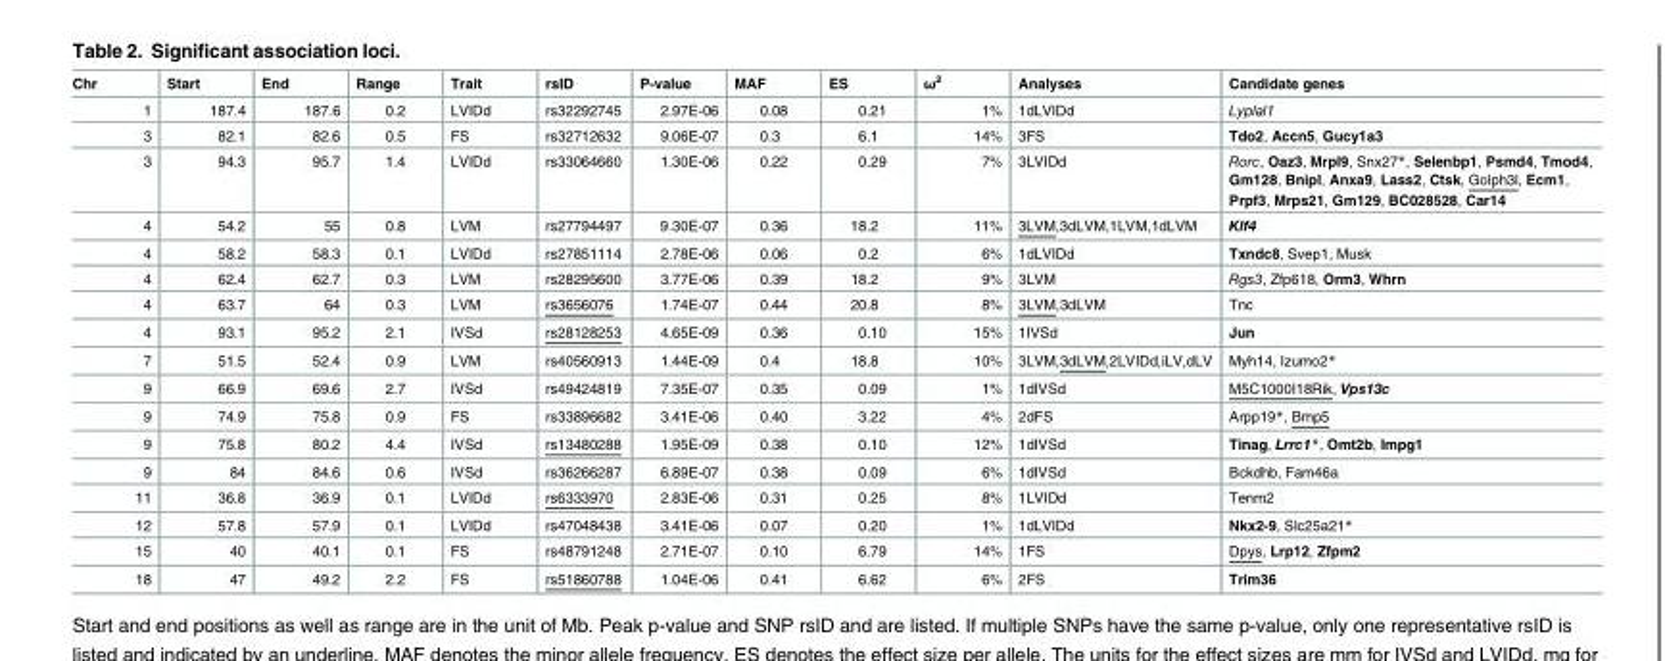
<table><thead><tr><td>Chr</td><td>Start</td><td>End</td><td>Range</td><td>Trait</td><td>rsID</td><td>P-value</td><td>MAF</td><td>ES</td><td>ω<sup>2</sup></td><td>Analyses</td><td>Candidate genes</td></tr></thead><tbody><tr><td>1</td><td>187.4</td><td>187.6</td><td>0.2</td><td>LVIDd</td><td>rs32292745</td><td>2.97E-06</td><td>0.08</td><td>0.21</td><td>1%</td><td>1dLVIDd</td><td>Lyplal1</td></tr><tr><td>3</td><td>82.1</td><td>82.6</td><td>0.5</td><td>FS</td><td>rs32712632</td><td>9.06E-07</td><td>0.3</td><td>6.1</td><td>14%</td><td>3FS</td><td>Tdo2, Accn5, Gucy1a3</td></tr><tr><td>3</td><td>94.3</td><td>95.7</td><td>1.4</td><td>LVIDd</td><td>rs33064660</td><td>1.30E-06</td><td>0.22</td><td>0.29</td><td>7%</td><td>3LVIDd</td><td>Rorc, Oaz3, Mrpl9, Snx27*, Selenbp1, Psmd4, Tmod4, Gm128, Bnipl, Anxa9, Lass2, Ctsk, Golph3l, Ecm1, Prpf3, Mrps21, Gm129, BC028528, Car14</td></tr><tr><td>4</td><td>54.2</td><td>55</td><td>0.8</td><td>LVM</td><td>rs27794497</td><td>9.30E-07</td><td>0.36</td><td>18.2</td><td>11%</td><td>3LVM,3dLVM,1LVM,1dLVM</td><td>Klf4</td></tr><tr><td>4</td><td>58.2</td><td>58.3</td><td>0.1</td><td>LVIDd</td><td>rs27851114</td><td>2.78E-06</td><td>0.06</td><td>0.2</td><td>6%</td><td>1dLVIDd</td><td>Txndc8, Svep1, Musk</td></tr><tr><td>4</td><td>62.4</td><td>62.7</td><td>0.3</td><td>LVM</td><td>rs28295600</td><td>3.77E-06</td><td>0.39</td><td>18.2</td><td>9%</td><td>3LVM</td><td>Rgs3, Zfp618, Orm3, Whrn</td></tr><tr><td>4</td><td>63.7</td><td>64</td><td>0.3</td><td>LVM</td><td>rs3656076</td><td>1.74E-07</td><td>0.44</td><td>20.8</td><td>8%</td><td>3LVM,3dLVM</td><td>Tnc</td></tr><tr><td>4</td><td>93.1</td><td>95.2</td><td>2.1</td><td>IVSd</td><td>rs28128253</td><td>4.65E-09</td><td>0.36</td><td>0.10</td><td>15%</td><td>1IVSd</td><td>Jun</td></tr><tr><td>7</td><td>51.5</td><td>52.4</td><td>0.9</td><td>LVM</td><td>rs40560913</td><td>1.44E-09</td><td>0.4</td><td>18.8</td><td>10%</td><td>3LVM,3dLVM,2LVIDd,iLV,dLV</td><td>Myh14, Izumo2*</td></tr><tr><td>9</td><td>66.9</td><td>69.6</td><td>2.7</td><td>IVSd</td><td>rs49424819</td><td>7.35E-07</td><td>0.35</td><td>0.09</td><td>1%</td><td>1dIVSd</td><td>M5C1000I18Rik, Vps13c</td></tr><tr><td>9</td><td>74.9</td><td>75.8</td><td>0.9</td><td>FS</td><td>rs33896682</td><td>3.41E-06</td><td>0.40</td><td>3.22</td><td>4%</td><td>2dFS</td><td>Arpp19*, Bmp5</td></tr><tr><td>9</td><td>75.8</td><td>80.2</td><td>4.4</td><td>IVSd</td><td>rs13480288</td><td>1.95E-09</td><td>0.38</td><td>0.10</td><td>12%</td><td>1dIVSd</td><td>Tinag, Lrrc1*, Omt2b, Impg1</td></tr><tr><td>9</td><td>84</td><td>84.6</td><td>0.6</td><td>IVSd</td><td>rs36266287</td><td>6.89E-07</td><td>0.38</td><td>0.09</td><td>6%</td><td>1dIVSd</td><td>Bckdhb, Fam46a</td></tr><tr><td>11</td><td>36.8</td><td>36.9</td><td>0.1</td><td>LVIDd</td><td>rs6333970</td><td>2.83E-06</td><td>0.31</td><td>0.25</td><td>8%</td><td>1LVIDd</td><td>Tenm2</td></tr><tr><td>12</td><td>57.8</td><td>57.9</td><td>0.1</td><td>LVIDd</td><td>rs47048438</td><td>3.41E-06</td><td>0.07</td><td>0.20</td><td>1%</td><td>1dLVIDd</td><td>Nkx2-9, Slc25a21*</td></tr><tr><td>15</td><td>40</td><td>40.1</td><td>0.1</td><td>FS</td><td>rs48791248</td><td>2.71E-07</td><td>0.10</td><td>6.79</td><td>14%</td><td>1FS</td><td>Dpys, Lrp12, Zfpm2</td></tr><tr><td>18</td><td>47</td><td>49.2</td><td>2.2</td><td>FS</td><td>rs51860788</td><td>1.04E-06</td><td>0.41</td><td>6.62</td><td>6%</td><td>2FS</td><td>Trim36</td></tr></tbody></table>